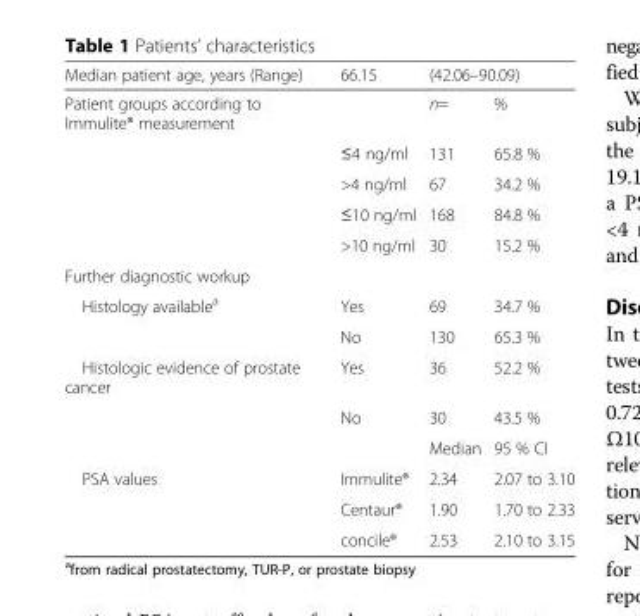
<table><thead><tr><td rowspan="2">Median patient age, years (Range) Patient groups according to Immulite® measurement</td><td rowspan="2">66.15</td><td colspan="2">(42.06–90.09)</td></tr><tr><td>n=</td><td>%</td></tr></thead><tbody><tr><td></td><td>≤4 ng/ml</td><td>131</td><td>65.8 %</td></tr><tr><td></td><td>&gt;4 ng/ml</td><td>67</td><td>34.2 %</td></tr><tr><td></td><td>≤10 ng/ml</td><td>168</td><td>84.8 %</td></tr><tr><td></td><td>&gt;10 ng/ml</td><td>30</td><td>15.2 %</td></tr><tr><td colspan="4">Further diagnostic workup</td></tr><tr><td rowspan="2">Histology available<sup>a</sup></td><td>Yes</td><td>69</td><td>34.7 %</td></tr><tr><td>No</td><td>130</td><td>65.3 %</td></tr><tr><td rowspan="3">Histologic evidence of prostate cancer</td><td>Yes</td><td>36</td><td>52.2 %</td></tr><tr><td>No</td><td>30</td><td>43.5 %</td></tr><tr><td></td><td>Median</td><td>95 % CI</td></tr><tr><td rowspan="3">PSA values</td><td>Immulite®</td><td>2.34</td><td>2.07 to 3.10</td></tr><tr><td>Centaur®</td><td>1.90</td><td>1.70 to 2.33</td></tr><tr><td>concile®</td><td>2.53</td><td>2.10 to 3.15</td></tr></tbody></table>